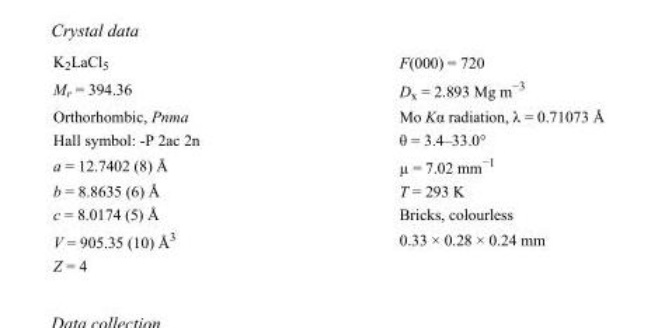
<table><tbody><tr><td>K<sub>2</sub>LaCl<sub>5</sub></td><td>F(000) = 720</td></tr><tr><td>M<sub>r</sub> = 394.36</td><td>D<sub>x</sub> = 2.893 Mg m<sup>−3</sup></td></tr><tr><td>Orthorhombic, Pnma</td><td>Mo Kα radiation, λ = 0.71073 Å</td></tr><tr><td>Hall symbol: -P 2ac 2n</td><td>θ = 3.4–33.0°</td></tr><tr><td>a = 12.7402 (8) Å</td><td>µ = 7.02 mm<sup>−1</sup></td></tr><tr><td>b = 8.8635 (6) Å</td><td>T = 293 K</td></tr><tr><td>c = 8.0174 (5) Å</td><td>Bricks, colourless</td></tr><tr><td>V = 905.35 (10) Å<sup>3</sup></td><td>0.33 × 0.28 × 0.24 mm</td></tr><tr><td>Z = 4</td><td></td></tr></tbody></table>